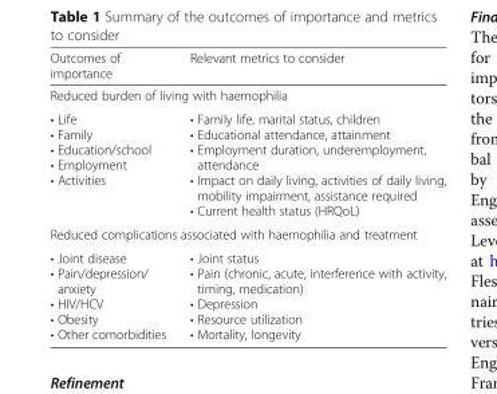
<table><thead><tr><td>Outcomes of importance</td><td>Relevant metrics to consider</td></tr></thead><tbody><tr><td colspan="2">Reduced burden of living with haemophilia</td></tr><tr><td>• Life • Family • Education/school • Employment • Activities</td><td>• Family life, marital status, children • Educational attendance, attainment • Employment duration, underemployment, attendance • Impact on daily living, activities of daily living, mobility impairment, assistance required • Current health status (HRQoL)</td></tr><tr><td colspan="2">Reduced complications associated with haemophilia and treatment</td></tr><tr><td>• Joint disease • Pain/depression/ anxiety • HIV/HCV • Obesity • Other comorbidities</td><td>• Joint status • Pain (chronic, acute, interference with activity, timing, medication) • Depression • Resource utilization • Mortality, longevity</td></tr></tbody></table>